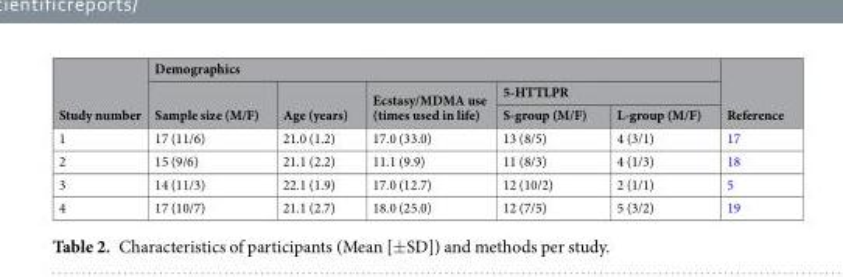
<table><thead><tr><td rowspan="3">Study number</td><td colspan="5">Demographics</td><td rowspan="3">Reference</td></tr><tr><td rowspan="2">Sample size (M/F)</td><td rowspan="2">Age (years)</td><td rowspan="2">Ecstasy/MDMA use (times used in life)</td><td colspan="2">5-HTTLPR</td></tr><tr><td>S-group (M/F)</td><td>L-group (M/F)</td></tr></thead><tbody><tr><td>1</td><td>17 (11/6)</td><td>21.0 (1.2)</td><td>17.0 (33.0)</td><td>13 (8/5)</td><td>4 (3/1)</td><td>17</td></tr><tr><td>2</td><td>15 (9/6)</td><td>21.1 (2.2)</td><td>11.1 (9.9)</td><td>11 (8/3)</td><td>4 (1/3)</td><td>18</td></tr><tr><td>3</td><td>14 (11/3)</td><td>22.1 (1.9)</td><td>17.0 (12.7)</td><td>12 (10/2)</td><td>2 (1/1)</td><td>5</td></tr><tr><td>4</td><td>17 (10/7)</td><td>21.1 (2.7)</td><td>18.0 (25.0)</td><td>12 (7/5)</td><td>5 (3/2)</td><td>19</td></tr></tbody></table>